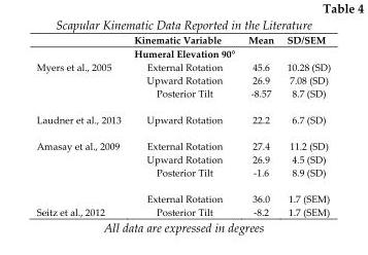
<table><thead><tr><td></td><td>Kinematic Variable</td><td>Mean</td><td>SD/SEM</td></tr></thead><tbody><tr><td colspan="4">Humeral Elevation 90°</td></tr><tr><td rowspan="3">Myers et al., 2005</td><td>External Rotation</td><td>45.6</td><td>10.28 (SD)</td></tr><tr><td>Upward Rotation</td><td>26.9</td><td>7.08 (SD)</td></tr><tr><td>Posterior Tilt</td><td>-8.57</td><td>8.7 (SD)</td></tr><tr><td>Laudner et al., 2013</td><td>Upward Rotation</td><td>22.2</td><td>6.7 (SD)</td></tr><tr><td rowspan="4">Amasay et al., 2009</td><td>External Rotation</td><td>27.4</td><td>11.2 (SD)</td></tr><tr><td>Upward Rotation</td><td>26.9</td><td>4.5 (SD)</td></tr><tr><td>Posterior Tilt</td><td>-1.6</td><td>8.9 (SD)</td></tr><tr><td>External Rotation</td><td>36.0</td><td>1.7 (SEM)</td></tr><tr><td>Seitz et al., 2012</td><td>Posterior Tilt</td><td>-8.2</td><td>1.7 (SEM)</td></tr></tbody></table>